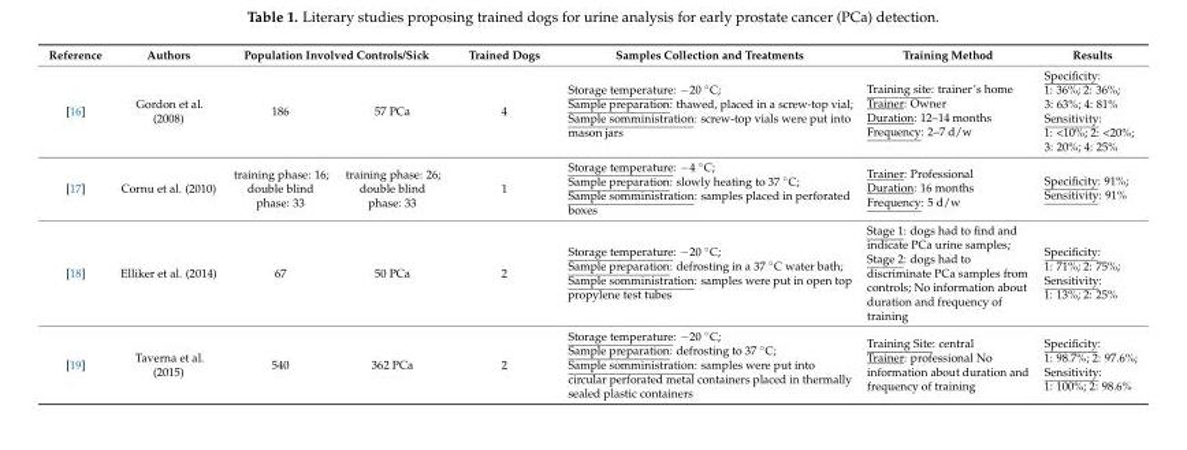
<table><thead><tr><td rowspan="2">Reference [16]</td><td rowspan="2">Authors Gordon et al. (2008)</td><td colspan="2">Population Involved Controls/Sick</td><td rowspan="2">Trained Dogs 4</td><td rowspan="2">Samples Collection and Treatments Storage temperature: −20 ◦C; Sample preparation: thawed, placed in a screw-top vial; Sample somministration: screw-top vials were put into mason jars</td><td rowspan="2">Training Method Training site: trainer’s home Trainer: Owner Duration: 12–14 months Frequency: 2–7 d/w</td><td rowspan="2">Results Specificity: 1: 36%; 2: 36%; 3: 63%; 4: 81% Sensitivity: 1: &lt;10%; 2: &lt;20%; 3: 20%; 4: 25%</td></tr><tr><td>186</td><td>57 PCa</td></tr></thead><tbody><tr><td>[17]</td><td>Cornu et al. (2010)</td><td>training phase: 16; double blind phase: 33</td><td>training phase: 26; double blind phase: 33</td><td>1</td><td>Storage temperature: −4 ◦C; Sample preparation: slowly heating to 37 ◦C; Sample somministration: samples placed in perforated boxes</td><td>Trainer: Professional Duration: 16 months Frequency: 5 d/w</td><td>Specificity: 91%; Sensitivity: 91%</td></tr><tr><td>[18]</td><td>Elliker et al. (2014)</td><td>67</td><td>50 PCa</td><td>2</td><td>Storage temperature: −20 ◦C; Sample preparation: defrosting in a 37 ◦C water bath; Sample somministration: samples were put in open top propylene test tubes</td><td>Stage 1: dogs had to find and indicate PCa urine samples; Stage 2: dogs had to discriminate PCa samples from controls; No information about duration and frequency of training</td><td>Specificity: 1: 71%; 2: 75%; Sensitivity: 1: 13%; 2: 25%</td></tr><tr><td>[19]</td><td>Taverna et al. (2015)</td><td>540</td><td>362 PCa</td><td>2</td><td>Storage temperature: −20 ◦C; Sample preparation: defrosting to 37 ◦C; Sample somministration: samples were put into circular perforated metal containers placed in thermally sealed plastic containers</td><td>Training Site: central Trainer: professional No information about duration and frequency of training</td><td>Specificity: 1: 98.7%; 2: 97.6%; Sensitivity: 1: 100%; 2: 98.6%</td></tr></tbody></table>